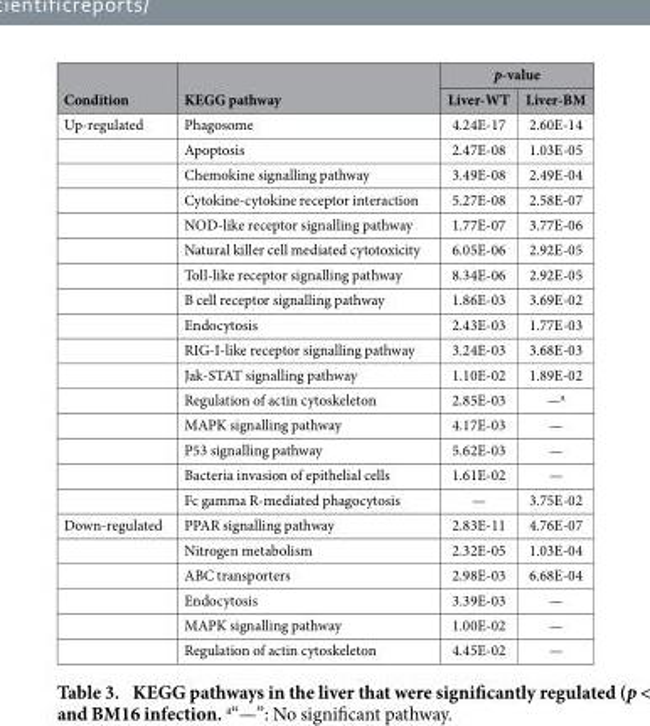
<table><thead><tr><td rowspan="2">Condition</td><td rowspan="2">KEGG pathway</td><td colspan="2">p-value</td></tr><tr><td>Liver-WT</td><td>Liver-BM</td></tr></thead><tbody><tr><td rowspan="16">Up-regulated</td><td>Phagosome</td><td>4.24E-17</td><td>2.60E-14</td></tr><tr><td>Apoptosis</td><td>2.47E-08</td><td>1.03E-05</td></tr><tr><td>Chemokine signalling pathway</td><td>3.49E-08</td><td>2.49E-04</td></tr><tr><td>Cytokine-cytokine receptor interaction</td><td>5.27E-08</td><td>2.58E-07</td></tr><tr><td>NOD-like receptor signalling pathway</td><td>1.77E-07</td><td>3.77E-06</td></tr><tr><td>Natural killer cell mediated cytotoxicity</td><td>6.05E-06</td><td>2.92E-05</td></tr><tr><td>Toll-like receptor signalling pathway</td><td>8.34E-06</td><td>2.92E-05</td></tr><tr><td>B cell receptor signalling pathway</td><td>1.86E-03</td><td>3.69E-02</td></tr><tr><td>Endocytosis</td><td>2.43E-03</td><td>1.77E-03</td></tr><tr><td>RIG-I-like receptor signalling pathway</td><td>3.24E-03</td><td>3.68E-03</td></tr><tr><td>Jak-STAT signalling pathway</td><td>1.10E-02</td><td>1.89E-02</td></tr><tr><td>Regulation of actin cytoskeleton</td><td>2.85E-03</td><td>—a</td></tr><tr><td>MAPK signalling pathway</td><td>4.17E-03</td><td>—</td></tr><tr><td>P53 signalling pathway</td><td>5.62E-03</td><td>—</td></tr><tr><td>Bacteria invasion of epithelial cells</td><td>1.61E-02</td><td>—</td></tr><tr><td>Fc gamma R-mediated phagocytosis</td><td>—</td><td>3.75E-02</td></tr><tr><td rowspan="6">Down-regulated</td><td>PPAR signalling pathway</td><td>2.83E-11</td><td>4.76E-07</td></tr><tr><td>Nitrogen metabolism</td><td>2.32E-05</td><td>1.03E-04</td></tr><tr><td>ABC transporters</td><td>2.98E-03</td><td>6.68E-04</td></tr><tr><td>Endocytosis</td><td>3.39E-03</td><td>—</td></tr><tr><td>MAPK signalling pathway</td><td>1.00E-02</td><td>—</td></tr><tr><td>Regulation of actin cytoskeleton</td><td>4.45E-02</td><td>—</td></tr></tbody></table>